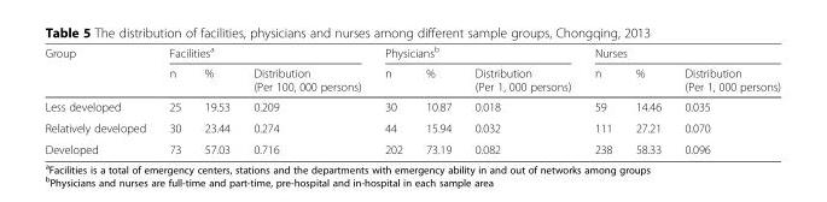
<table><thead><tr><td rowspan="2">Group</td><td colspan="3">Facilities<sup>a</sup></td><td colspan="3">Physicians<sup>b</sup></td><td colspan="3">Nurses</td></tr><tr><td>n</td><td>%</td><td>Distribution (Per 100, 000 persons)</td><td>n</td><td>%</td><td>Distribution (Per 1, 000 persons)</td><td>n</td><td>%</td><td>Distribution (Per 1, 000 persons)</td></tr></thead><tbody><tr><td>Less developed</td><td>25</td><td>19.53</td><td>0.209</td><td>30</td><td>10.87</td><td>0.018</td><td>59</td><td>14.46</td><td>0.035</td></tr><tr><td>Relatively developed</td><td>30</td><td>23.44</td><td>0.274</td><td>44</td><td>15.94</td><td>0.032</td><td>111</td><td>27.21</td><td>0.070</td></tr><tr><td>Developed</td><td>73</td><td>57.03</td><td>0.716</td><td>202</td><td>73.19</td><td>0.082</td><td>238</td><td>58.33</td><td>0.096</td></tr></tbody></table>